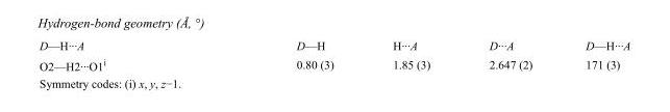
<table><tbody><tr><td>D—H···A</td><td>D—H</td><td>H···A</td><td>D···A</td><td>D—H···A</td></tr><tr><td>O2—H2···O1<sup>i</sup></td><td>0.80 (3)</td><td>1.85 (3)</td><td>2.647 (2)</td><td>171 (3)</td></tr></tbody></table>